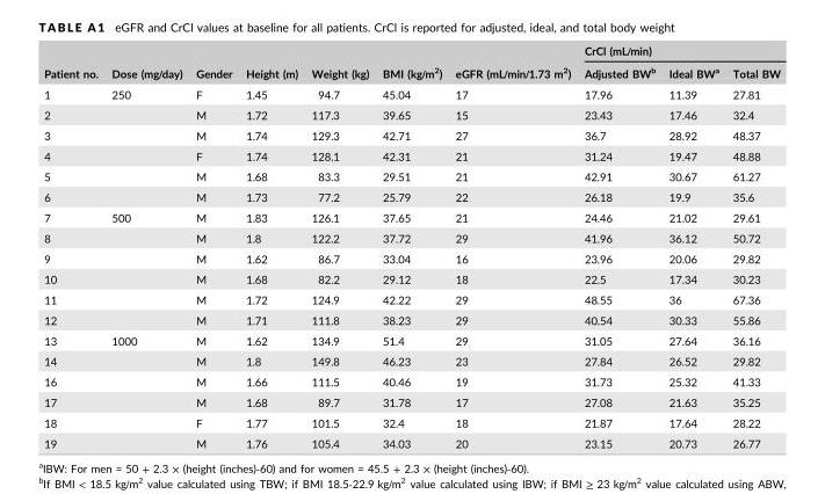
<table><thead><tr><td rowspan="2">Patient no.</td><td rowspan="2">Dose (mg/day)</td><td rowspan="2">Gender</td><td rowspan="2">Height (m)</td><td rowspan="2">Weight (kg)</td><td rowspan="2">BMI (kg/m<sup>2</sup>)</td><td rowspan="2">eGFR (mL/min/1.73 m<sup>2</sup>)</td><td colspan="3">CrCl (mL/min)</td></tr><tr><td>Adjusted BW<sup>b</sup></td><td>Ideal BW<sup>a</sup></td><td>Total BW</td></tr></thead><tbody><tr><td>1</td><td>250</td><td>F</td><td>1.45</td><td>94.7</td><td>45.04</td><td>17</td><td>17.96</td><td>11.39</td><td>27.81</td></tr><tr><td>2</td><td></td><td>M</td><td>1.72</td><td>117.3</td><td>39.65</td><td>15</td><td>23.43</td><td>17.46</td><td>32.4</td></tr><tr><td>3</td><td></td><td>M</td><td>1.74</td><td>129.3</td><td>42.71</td><td>27</td><td>36.7</td><td>28.92</td><td>48.37</td></tr><tr><td>4</td><td></td><td>F</td><td>1.74</td><td>128.1</td><td>42.31</td><td>21</td><td>31.24</td><td>19.47</td><td>48.88</td></tr><tr><td>5</td><td></td><td>M</td><td>1.68</td><td>83.3</td><td>29.51</td><td>21</td><td>42.91</td><td>30.67</td><td>61.27</td></tr><tr><td>6</td><td></td><td>M</td><td>1.73</td><td>77.2</td><td>25.79</td><td>22</td><td>26.18</td><td>19.9</td><td>35.6</td></tr><tr><td>7</td><td>500</td><td>M</td><td>1.83</td><td>126.1</td><td>37.65</td><td>21</td><td>24.46</td><td>21.02</td><td>29.61</td></tr><tr><td>8</td><td></td><td>M</td><td>1.8</td><td>122.2</td><td>37.72</td><td>29</td><td>41.96</td><td>36.12</td><td>50.72</td></tr><tr><td>9</td><td></td><td>M</td><td>1.62</td><td>86.7</td><td>33.04</td><td>16</td><td>23.96</td><td>20.06</td><td>29.82</td></tr><tr><td>10</td><td></td><td>M</td><td>1.68</td><td>82.2</td><td>29.12</td><td>18</td><td>22.5</td><td>17.34</td><td>30.23</td></tr><tr><td>11</td><td></td><td>M</td><td>1.72</td><td>124.9</td><td>42.22</td><td>29</td><td>48.55</td><td>36</td><td>67.36</td></tr><tr><td>12</td><td></td><td>M</td><td>1.71</td><td>111.8</td><td>38.23</td><td>29</td><td>40.54</td><td>30.33</td><td>55.86</td></tr><tr><td>13</td><td>1000</td><td>M</td><td>1.62</td><td>134.9</td><td>51.4</td><td>29</td><td>31.05</td><td>27.64</td><td>36.16</td></tr><tr><td>14</td><td></td><td>M</td><td>1.8</td><td>149.8</td><td>46.23</td><td>23</td><td>27.84</td><td>26.52</td><td>29.82</td></tr><tr><td>16</td><td></td><td>M</td><td>1.66</td><td>111.5</td><td>40.46</td><td>19</td><td>31.73</td><td>25.32</td><td>41.33</td></tr><tr><td>17</td><td></td><td>M</td><td>1.68</td><td>89.7</td><td>31.78</td><td>17</td><td>27.08</td><td>21.63</td><td>35.25</td></tr><tr><td>18</td><td></td><td>F</td><td>1.77</td><td>101.5</td><td>32.4</td><td>18</td><td>21.87</td><td>17.64</td><td>28.22</td></tr><tr><td>19</td><td></td><td>M</td><td>1.76</td><td>105.4</td><td>34.03</td><td>20</td><td>23.15</td><td>20.73</td><td>26.77</td></tr></tbody></table>